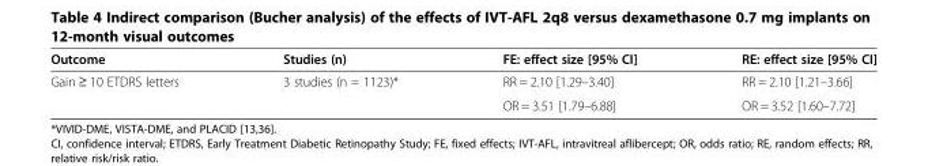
<table><thead><tr><td>Outcome</td><td>Studies (n)</td><td>FE: effect size [95% CI]</td><td>RE: effect size [95% CI]</td></tr></thead><tbody><tr><td rowspan="2">Gain ≥ 10 ETDRS letters</td><td rowspan="2">3 studies (n = 1123)*</td><td>RR = 2.10 [1.29–3.40]</td><td>RR = 2.10 [1.21–3.66]</td></tr><tr><td>OR = 3.51 [1.79–6.88]</td><td>OR = 3.52 [1.60–7.72]</td></tr></tbody></table>